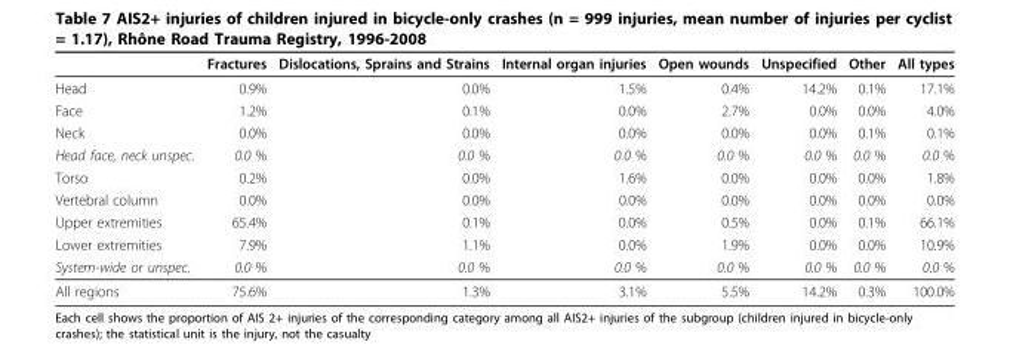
<table><thead><tr><td></td><td>Fractures</td><td>Dislocations, Sprains and Strains</td><td>Internal organ injuries</td><td>Open wounds</td><td>Unspecified</td><td>Other</td><td>All types</td></tr></thead><tbody><tr><td>Head</td><td>0.9%</td><td>0.0%</td><td>1.5%</td><td>0.4%</td><td>14.2%</td><td>0.1%</td><td>17.1%</td></tr><tr><td>Face</td><td>1.2%</td><td>0.1%</td><td>0.0%</td><td>2.7%</td><td>0.0%</td><td>0.0%</td><td>4.0%</td></tr><tr><td>Neck</td><td>0.0%</td><td>0.0%</td><td>0.0%</td><td>0.0%</td><td>0.0%</td><td>0.1%</td><td>0.1%</td></tr><tr><td>Head face, neck unspec.</td><td>0.0 %</td><td>0.0 %</td><td>0.0 %</td><td>0.0 %</td><td>0.0 %</td><td>0.0 %</td><td>0.0 %</td></tr><tr><td>Torso</td><td>0.2%</td><td>0.0%</td><td>1.6%</td><td>0.0%</td><td>0.0%</td><td>0.0%</td><td>1.8%</td></tr><tr><td>Vertebral column</td><td>0.0%</td><td>0.0%</td><td>0.0%</td><td>0.0%</td><td>0.0%</td><td>0.0%</td><td>0.0%</td></tr><tr><td>Upper extremities</td><td>65.4%</td><td>0.1%</td><td>0.0%</td><td>0.5%</td><td>0.0%</td><td>0.1%</td><td>66.1%</td></tr><tr><td>Lower extremities</td><td>7.9%</td><td>1.1%</td><td>0.0%</td><td>1.9%</td><td>0.0%</td><td>0.0%</td><td>10.9%</td></tr><tr><td>System-wide or unspec.</td><td>0.0 %</td><td>0.0 %</td><td>0.0 %</td><td>0.0 %</td><td>0.0 %</td><td>0.0 %</td><td>0.0 %</td></tr><tr><td>All regions</td><td>75.6%</td><td>1.3%</td><td>3.1%</td><td>5.5%</td><td>14.2%</td><td>0.3%</td><td>100.0%</td></tr></tbody></table>